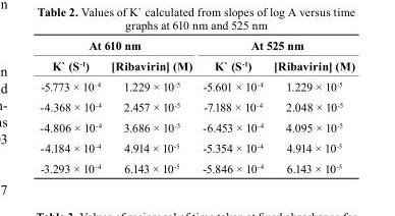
<table><thead><tr><td colspan="2">At 610 nm</td><td colspan="2">At 525 nm</td></tr><tr><td>K` (s<sup>-1</sup>)</td><td>[ribavirin] (M)</td><td>K` (s<sup>-1</sup>)</td><td>[ribavirin] (M)</td></tr></thead><tbody><tr><td>-5.773 × 10<sup>-4</sup></td><td>1.229 × 10<sup>-5</sup></td><td>-5.601 × 10<sup>-4</sup></td><td>1.229 × 10<sup>-5</sup></td></tr><tr><td>-4.368 × 10<sup>-4</sup></td><td>2.457 × 10<sup>-5</sup></td><td>-7.188 × 10<sup>-4</sup></td><td>2.048 × 10<sup>-5</sup></td></tr><tr><td>-4.806 × 10<sup>-4</sup></td><td>3.686 × 10<sup>-5</sup></td><td>-6.453 × 10<sup>-4</sup></td><td>4.095 × 10<sup>-5</sup></td></tr><tr><td>-4.184 × 10<sup>-4</sup></td><td>4.914 × 10<sup>-5</sup></td><td>-5.354 × 10<sup>-4</sup></td><td>4.914 × 10<sup>-5</sup></td></tr><tr><td>-3.293 × 10<sup>-4</sup></td><td>6.143 × 10<sup>-5</sup></td><td>-5.846 × 10<sup>-4</sup></td><td>6.143 × 10<sup>-5</sup></td></tr></tbody></table>